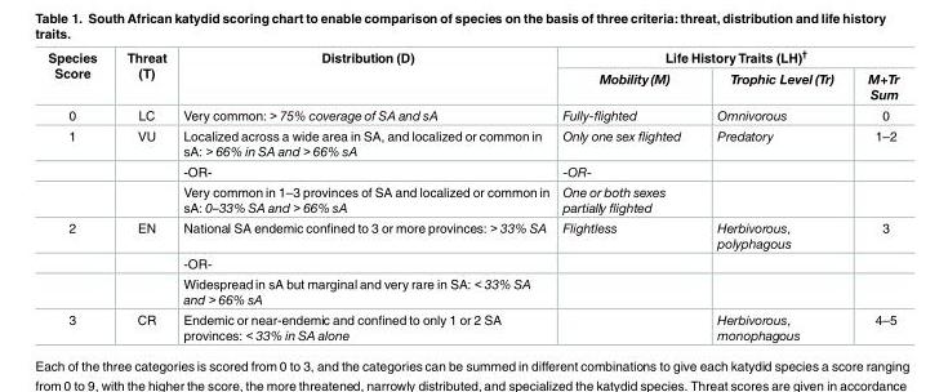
<table><thead><tr><td rowspan="2">Species Score</td><td rowspan="2">Threat (T)</td><td rowspan="2">Distribution (D)</td><td colspan="3">Life History Traits (LH)<sup>†</sup></td></tr><tr><td>Mobility(M)</td><td>Trophic Level (Tr)</td><td>M+Tr Sum</td></tr></thead><tbody><tr><td>0</td><td>LC</td><td>Very common: &gt; 75% coverage of SA and sA</td><td>Fully-flighted</td><td>Omnivorous</td><td>0</td></tr><tr><td rowspan="3">1</td><td>VU</td><td>Localized across a wide area in SA, and localized or common in sA: &gt; 66% in SA and &gt; 66% sA</td><td>Only one sex flighted</td><td>Predatory</td><td>1–2</td></tr><tr><td></td><td>-OR-</td><td>-OR-</td><td></td><td></td></tr><tr><td></td><td>Very common in 1–3 provinces of SA and localized or common in sA: 0–33% SA and &gt; 66% sA</td><td>One or both sexes partially flighted</td><td></td><td></td></tr><tr><td rowspan="3">2</td><td>EN</td><td>National SA endemic confined to 3 or more provinces: &gt; 33% SA</td><td>Flightless</td><td>Herbivorous, polyphagous</td><td>3</td></tr><tr><td></td><td>-OR-</td><td></td><td></td><td></td></tr><tr><td></td><td>Widespread in sA but marginal and very rare in SA: &lt; 33% SA and &gt; 66% sA</td><td></td><td></td><td></td></tr><tr><td>3</td><td>CR</td><td>Endemic or near-endemic and confined to only 1 or 2 SA provinces: &lt; 33% in SA alone</td><td></td><td>Herbivorous, monophagous</td><td>4–5</td></tr></tbody></table>